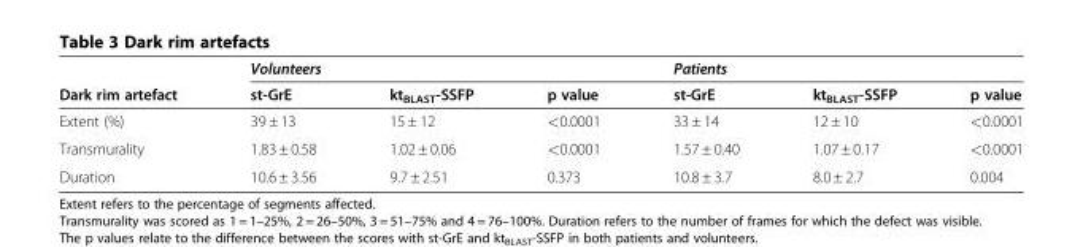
<table><thead><tr><td rowspan="2">Dark rim artefact</td><td colspan="3">Volunteers</td><td colspan="3">Patients</td></tr><tr><td>st-GrE</td><td>kt<sub>BLAST</sub>-SSFP</td><td>p value</td><td>st-GrE</td><td>kt<sub>BLAST</sub>-SSFP</td><td>p value</td></tr></thead><tbody><tr><td>Extent (%)</td><td>39 ± 13</td><td>15 ± 12</td><td>&lt;0.0001</td><td>33 ± 14</td><td>12 ± 10</td><td>&lt;0.0001</td></tr><tr><td>Transmurality</td><td>1.83 ± 0.58</td><td>1.02 ± 0.06</td><td>&lt;0.0001</td><td>1.57 ± 0.40</td><td>1.07 ± 0.17</td><td>&lt;0.0001</td></tr><tr><td>Duration</td><td>10.6 ± 3.56</td><td>9.7 ± 2.51</td><td>0.373</td><td>10.8 ± 3.7</td><td>8.0 ± 2.7</td><td>0.004</td></tr></tbody></table>